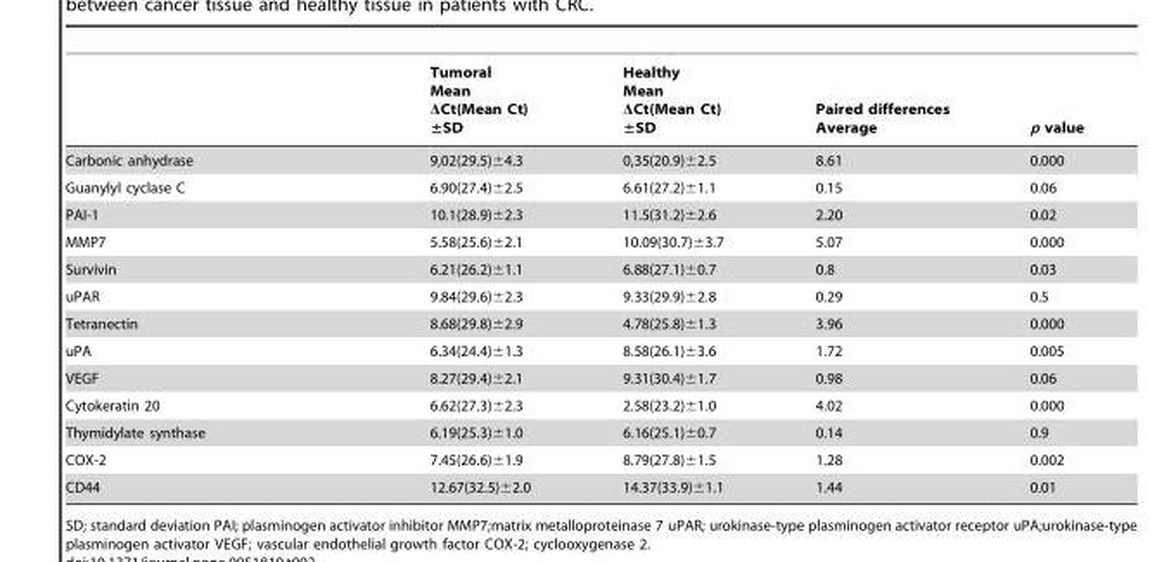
<table><thead><tr><td></td><td>Tumoral Mean ΔCt(Mean Ct) ±SD</td><td>Healthy Mean ΔCt(Mean Ct) ±SD</td><td>Paired differences Average</td><td>p value</td></tr></thead><tbody><tr><td>Carbonic anhydrase</td><td>9,02(29.5)±4.3</td><td>0,35(20.9)±2.5</td><td>8.61</td><td>0.000</td></tr><tr><td>Guanylyl cyclase C</td><td>6.90(27.4)±2.5</td><td>6.61(27.2)±1.1</td><td>0.15</td><td>0.06</td></tr><tr><td>PAI-1</td><td>10.1(28.9)±2.3</td><td>11.5(31.2)±2.6</td><td>2.20</td><td>0.02</td></tr><tr><td>MMP7</td><td>5.58(25.6)±2.1</td><td>10.09(30.7)±3.7</td><td>5.07</td><td>0.000</td></tr><tr><td>Survivin</td><td>6.21(26.2)±1.1</td><td>6.88(27.1)±0.7</td><td>0.8</td><td>0.03</td></tr><tr><td>uPAR</td><td>9.84(29.6)±2.3</td><td>9.33(29.9)±2.8</td><td>0.29</td><td>0.5</td></tr><tr><td>Tetranectin</td><td>8.68(29.8)±2.9</td><td>4.78(25.8)±1.3</td><td>3.96</td><td>0.000</td></tr><tr><td>uPA</td><td>6.34(24.4)±1.3</td><td>8.58(26.1)±3.6</td><td>1.72</td><td>0.005</td></tr><tr><td>VEGF</td><td>8.27(29.4)±2.1</td><td>9.31(30.4)±1.7</td><td>0.98</td><td>0.06</td></tr><tr><td>Cytokeratin 20</td><td>6.62(27.3)±2.3</td><td>2.58(23.2)±1.0</td><td>4.02</td><td>0.000</td></tr><tr><td>Thymidylate synthase</td><td>6.19(25.3)±1.0</td><td>6.16(25.1)±0.7</td><td>0.14</td><td>0.9</td></tr><tr><td>COX-2</td><td>7.45(26.6)±1.9</td><td>8.79(27.8)±1.5</td><td>1.28</td><td>0.002</td></tr><tr><td>CD44</td><td>12.67(32.5)±2.0</td><td>14.37(33.9)±1.1</td><td>1.44</td><td>0.01</td></tr></tbody></table>